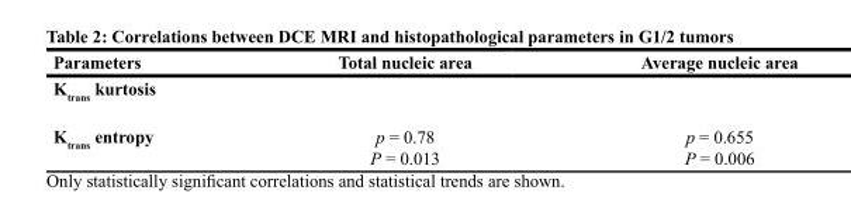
<table><thead><tr><td>Parameters</td><td>Total nucleic area</td><td>Average nucleic area</td></tr></thead><tbody><tr><td colspan="3">K<sub>trans</sub> kurtosis</td></tr><tr><td>K<sub>trans</sub> entropy</td><td>p = 0.78 P = 0.013</td><td>p = 0.655 P = 0.006</td></tr></tbody></table>